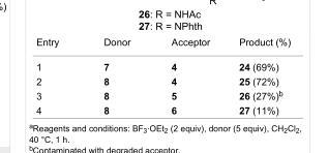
<table><tbody><tr><td>Entry</td><td>Donor</td><td>Acceptor</td><td>Product (%)</td></tr><tr><td>1</td><td>7</td><td>4</td><td>24 (69%)</td></tr><tr><td>2</td><td>8</td><td>4</td><td>25 (72%)</td></tr><tr><td>3</td><td>8</td><td>5</td><td>26 (27%)<sup>b</sup></td></tr><tr><td>4</td><td>8</td><td>6</td><td>27 (11%)</td></tr></tbody></table>